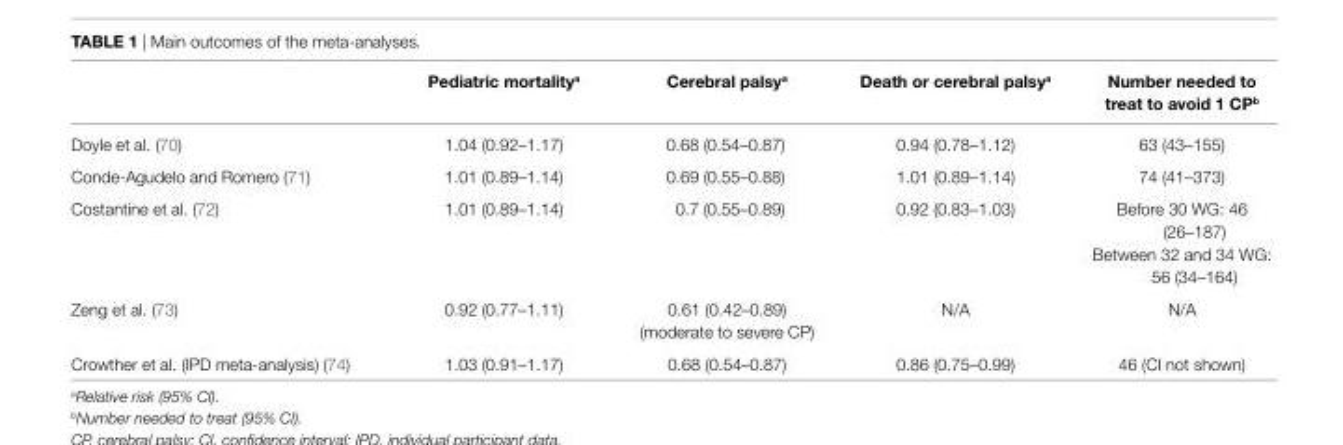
<table><thead><tr><td></td><td>Pediatric mortality<sup>a</sup></td><td>Cerebral palsy<sup>a</sup></td><td>Death or cerebral palsy<sup>a</sup></td><td>number needed to treat to avoid 1 CP<sup>b</sup></td></tr></thead><tbody><tr><td>Doyle et al. (70)</td><td>1.04 (0.92–1.17)</td><td>0.68 (0.54–0.87)</td><td>0.94 (0.78–1.12)</td><td>63 (43–155)</td></tr><tr><td>Conde-Agudelo and Romero (71)</td><td>1.01 (0.89–1.14)</td><td>0.69 (0.55–0.88)</td><td>1.01 (0.89–1.14)</td><td>74 (41–373)</td></tr><tr><td>Costantine et al. (72)</td><td>1.01 (0.89–1.14)</td><td>0.7 (0.55–0.89)</td><td>0.92 (0.83–1.03)</td><td>Before 30 WG: 46 (26–187) Between 32 and 34 WG: 56 (34–164)</td></tr><tr><td>Zeng et al. (73)</td><td>0.92 (0.77–1.11)</td><td>0.61 (0.42–0.89) (moderate to severe CP)</td><td>N/A</td><td>N/A</td></tr><tr><td>Crowther et al. (IPD meta-analysis) (74)</td><td>1.03 (0.91–1.17)</td><td>0.68 (0.54–0.87)</td><td>0.86 (0.75–0.99)</td><td>46 (CI not shown)</td></tr></tbody></table>